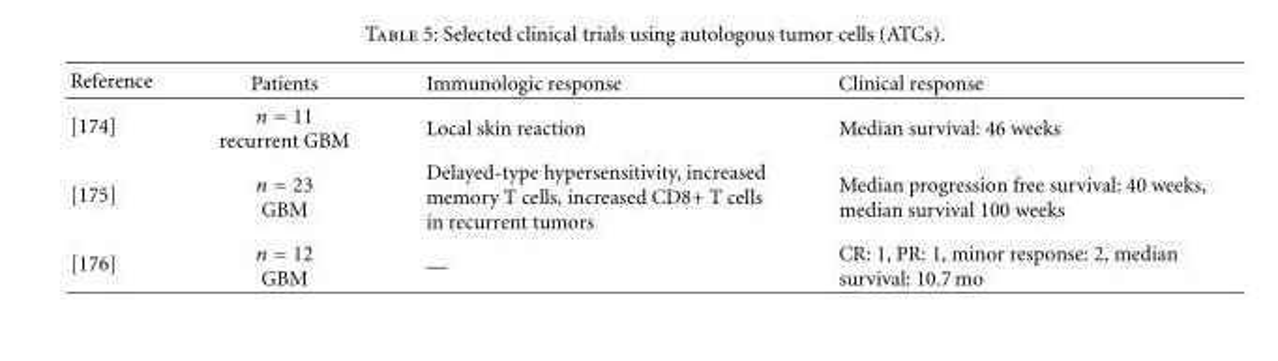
<table><thead><tr><td>Reference</td><td>Patients</td><td>Immunologic response</td><td>Clinical response</td></tr></thead><tbody><tr><td>[174]</td><td>n = 11 recurrent GBM</td><td>Local skin reaction</td><td>Median survival: 46 weeks</td></tr><tr><td>[175]</td><td>n = 23 GBM</td><td>Delayed-type hypersensitivity, increased memory T cells, increased CD8+ T cells in recurrent tumors</td><td>Median progression free survival: 40 weeks, median survival 100 weeks</td></tr><tr><td>[176]</td><td>n = 12 GBM</td><td>—</td><td>CR: 1, PR: 1, minor response: 2, median survival: 10.7 mo</td></tr></tbody></table>